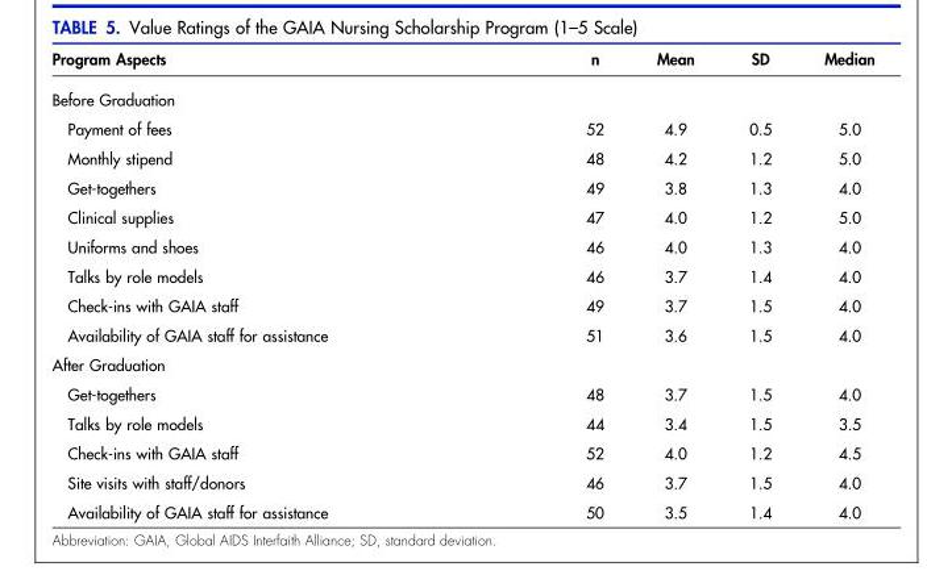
<table><thead><tr><td>Program Aspects</td><td>n</td><td>Mean</td><td>SD</td><td>Median</td></tr></thead><tbody><tr><td colspan="5">Before Graduation</td></tr><tr><td>Payment of fees</td><td>52</td><td>4.9</td><td>0.5</td><td>5.0</td></tr><tr><td>Monthly stipend</td><td>48</td><td>4.2</td><td>1.2</td><td>5.0</td></tr><tr><td>Get-togethers</td><td>49</td><td>3.8</td><td>1.3</td><td>4.0</td></tr><tr><td>Clinical supplies</td><td>47</td><td>4.0</td><td>1.2</td><td>5.0</td></tr><tr><td>Uniforms and shoes</td><td>46</td><td>4.0</td><td>1.3</td><td>4.0</td></tr><tr><td>Talks by role models</td><td>46</td><td>3.7</td><td>1.4</td><td>4.0</td></tr><tr><td>Check-ins with GAIA staff</td><td>49</td><td>3.7</td><td>1.5</td><td>4.0</td></tr><tr><td>Availability of GAIA staff for assistance</td><td>51</td><td>3.6</td><td>1.5</td><td>4.0</td></tr><tr><td colspan="5">After Graduation</td></tr><tr><td>Get-togethers</td><td>48</td><td>3.7</td><td>1.5</td><td>4.0</td></tr><tr><td>Talks by role models</td><td>44</td><td>3.4</td><td>1.5</td><td>3.5</td></tr><tr><td>Check-ins with GAIA staff</td><td>52</td><td>4.0</td><td>1.2</td><td>4.5</td></tr><tr><td>Site visits with staff/donors</td><td>46</td><td>3.7</td><td>1.5</td><td>4.0</td></tr><tr><td>Availability of GAIA staff for assistance</td><td>50</td><td>3.5</td><td>1.4</td><td>4.0</td></tr></tbody></table>